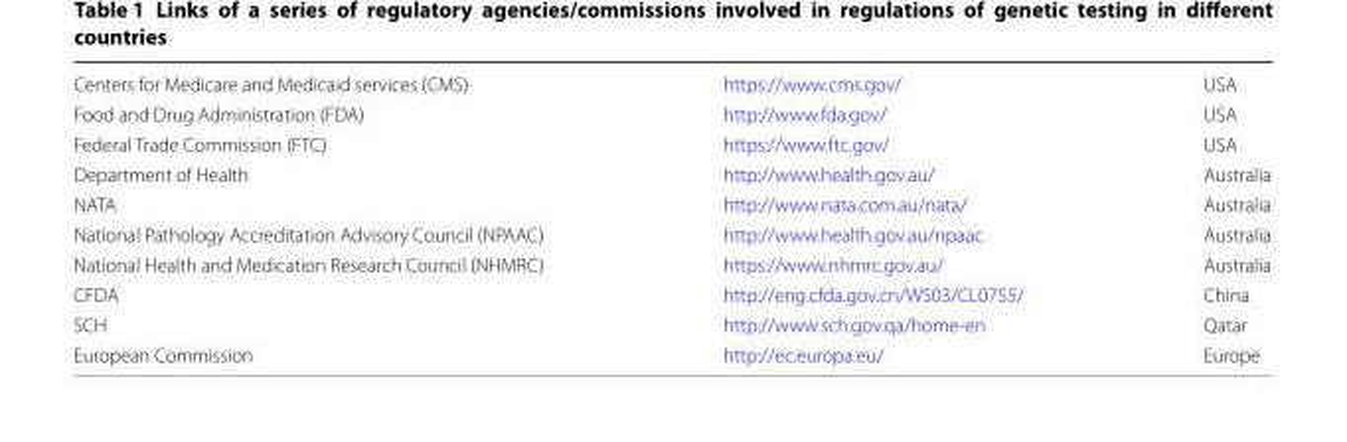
<table><tbody><tr><td>Centers for Medicare and Medicaid services (CMS)</td><td>https://www.cms.gov/</td><td>USA</td></tr><tr><td>Food and Drug Administration (FDA)</td><td>http://www.fda.gov/</td><td>USA</td></tr><tr><td>Federal Trade Commission (FTC)</td><td>https://www.ftc.gov/</td><td>USA</td></tr><tr><td>Department of Health</td><td>http://www.health.gov.au/</td><td>Australia</td></tr><tr><td>NATA</td><td>http://www.nata.com.au/nata/</td><td>Australia</td></tr><tr><td>National Pathology Accreditation Advisory Council (NPAAC)</td><td>http://www.health.gov.au/npaac</td><td>Australia</td></tr><tr><td>National Health and Medication Research Council (NHMRC)</td><td>https://www.nhmrc.gov.au/</td><td>Australia</td></tr><tr><td>CFDA</td><td>http://eng.cfda.gov.cn/WS03/CL0755/</td><td>China</td></tr><tr><td>SCH</td><td>http://www.sch.gov.qa/home-en</td><td>Qatar</td></tr><tr><td>European Commission</td><td>http://ec.europa.eu/</td><td>Europe</td></tr></tbody></table>